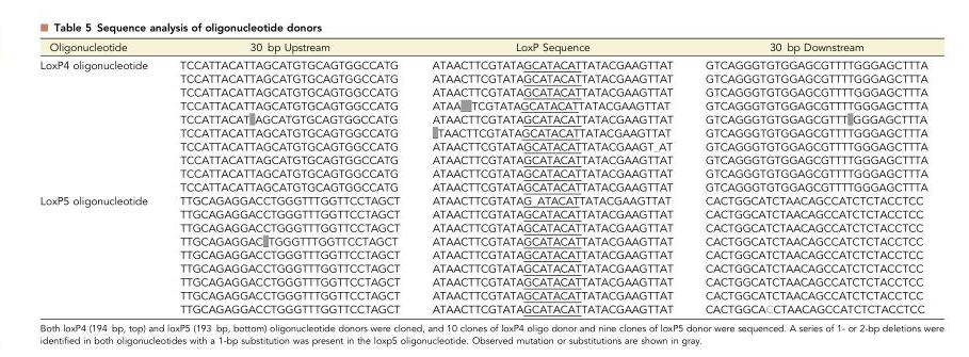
<table><thead><tr><td>Oligonucleotide</td><td>30 bp Upstream</td><td>LoxP Sequence</td><td>30 bp Downstream</td></tr></thead><tbody><tr><td rowspan="10">LoxP4 oligonucleotide</td><td>TCCATTACATTAGCATGTGCAGTGGCCATG</td><td>ATAACTTCGTATAGCATACATTATACGAAGTTAT</td><td>GTCAGGGTGTGGAGCGTTTTGGGAGCTTTA</td></tr><tr><td>TCCATTACATTAGCATGTGCAGTGGCCATG</td><td>ATAACTTCGTATAGCATACATTATACGAAGTTAT</td><td>GTCAGGGTGTGGAGCGTTTTGGGAGCTTTA</td></tr><tr><td>TCCATTACATTAGCATGTGCAGTGGCCATG</td><td>ATAACTTCGTATAGCATACATTATACGAAGTTAT</td><td>GTCAGGGTGTGGAGCGTTTTGGGAGCTTTA</td></tr><tr><td>TCCATTACATTAGCATGTGCAGTGGCCATG</td><td>ATAA__TCGTATAGCATACATTATACGAAGTTAT</td><td>GTCAGGGTGTGGAGCGTTTTGGGAGCTTTA</td></tr><tr><td>TCCATTACAT_AGCATGTGCAGTGGCCATG</td><td>ATAACTTCGTATAGCATACATTATACGAAGTTAT</td><td>GTCAGGGTGTGGAGCGTTT_GGGAGCTTTA</td></tr><tr><td>TCCATTACATTAGCATGTGCAGTGGCCATG</td><td>_TAACTTCGTATAGCATACATTATACGAAGTTAT</td><td>GTCAGGGTGTGGAGCGTTTTGGGAGCTTTA</td></tr><tr><td>TCCATTACATTAGCATGTGCAGTGGCCATG</td><td>ATAACTTCGTATAGCATACATTATACGAAGT_AT</td><td>GTCAGGGTGTGGAGCGTTTTGGGAGCTTTA</td></tr><tr><td>TCCATTACATTAGCATGTGCAGTGGCCATG</td><td>ATAACTTCGTATAGCATACATTATACGAAGTTAT</td><td>GTCAGGGTGTGGAGCGTTTTGGGAGCTTTA</td></tr><tr><td>TCCATTACATTAGCATGTGCAGTGGCCATG</td><td>ATAACTTCGTATAGCATACATTATACGAAGTTAT</td><td>GTCAGGGTGTGGAGCGTTTTGGGAGCTTTA</td></tr><tr><td>TCCATTACATTAGCATGTGCAGTGGCCATG</td><td>ATAACTTCGTATAGCATACATTATACGAAGTTAT</td><td>GTCAGGGTGTGGAGCGTTTTGGGAGCTTTA</td></tr><tr><td rowspan="9">LoxP5 oligonucleotide</td><td>TTGCAGAGGACCTGGGTTTGGTTCCTAGCT</td><td>ATAACTTCGTATAG_ATACATTATACGAAGTTAT</td><td>CACTGGCATCTAACAGCCATCTCTACCTCC</td></tr><tr><td>TTGCAGAGGACCTGGGTTTGGTTCCTAGCT</td><td>ATAACTTCGTATAGCATACATTATACGAAGTTAT</td><td>CACTGGCATCTAACAGCCATCTCTACCTCC</td></tr><tr><td>TTGCAGAGGACCTGGGTTTGGTTCCTAGCT</td><td>ATAACTTCGTATAGCATACATTATACGAAGTTAT</td><td>CACTGGCATCTAACAGCCATCTCTACCTCC</td></tr><tr><td>TTGCAGAGGAC_TGGGTTTGGTTCCTAGCT</td><td>ATAACTTCGTATAGCATACATTATACGAAGTTAT</td><td>CACTGGCATCTAACAGCCATCTCTACCTCC</td></tr><tr><td>TTGCAGAGGACCTGGGTTTGGTTCCTAGCT</td><td>ATAACTTCGTATAGCATACATTATACGAAGTTAT</td><td>CACTGGCATCTAACAGCCATCTCTACCTCC</td></tr><tr><td>TTGCAGAGGACCTGGGTTTGGTTCCTAGCT</td><td>ATAACTTCGTATAGCATACATTATACGAAGTTAT</td><td>CACTGGCATCTAACAGCCATCTCTACCTCC</td></tr><tr><td>TTGCAGAGGACCTGGGTTTGGTTCCTAGCT</td><td>ATAACTTCGTATAGCATACATTATACGAAGTTAT</td><td>CACTGGCATCTAACAGCCATCTCTACCTCC</td></tr><tr><td>TTGCAGAGGACCTGGGTTTGGTTCCTAGCT</td><td>ATAACTTCGTATAGCATACATTATACGAAGTTAT</td><td>CACTGGCATCTAACAGCCATCTCTACCTCC</td></tr><tr><td>TTGCAGAGGACCTGGGTTTGGTTCCTAGCT</td><td>ATAACTTCGTATAGCATACATTATACGAAGTTAT</td><td>CACTGGCACCTAACAGCCATCTCTACCTCC</td></tr></tbody></table>